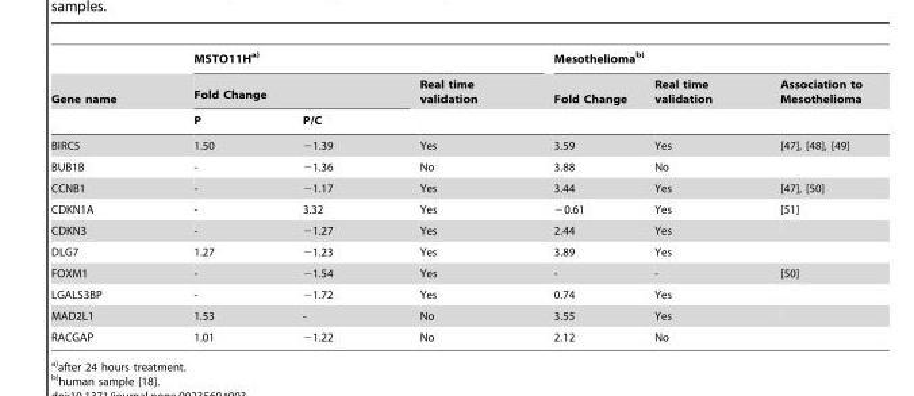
<table><thead><tr><td rowspan="3">Gene name</td><td colspan="3">MSTO11Ha)</td><td colspan="3">Mesotheliomab)</td></tr><tr><td colspan="2">Fold Change</td><td rowspan="2">Real time validation</td><td rowspan="2">Fold Change</td><td rowspan="2">Real time validation</td><td rowspan="2">Association to Mesothelioma</td></tr><tr><td>P</td><td>P/C</td></tr></thead><tbody><tr><td>BIRC5</td><td>1.50</td><td>−1.39</td><td>Yes</td><td>3.59</td><td>Yes</td><td>[47], [48], [49]</td></tr><tr><td>BUB1B</td><td>-</td><td>−1.36</td><td>No</td><td>3.88</td><td>No</td><td></td></tr><tr><td>CCNB1</td><td>-</td><td>−1.17</td><td>Yes</td><td>3.44</td><td>Yes</td><td>[47], [50]</td></tr><tr><td>CDKN1A</td><td>-</td><td>3.32</td><td>Yes</td><td>−0.61</td><td>Yes</td><td>[51]</td></tr><tr><td>CDKN3</td><td>-</td><td>−1.27</td><td>Yes</td><td>2.44</td><td>Yes</td><td></td></tr><tr><td>DLG7</td><td>1.27</td><td>−1.23</td><td>Yes</td><td>3.89</td><td>Yes</td><td></td></tr><tr><td>FOXM1</td><td>-</td><td>−1.54</td><td>Yes</td><td>-</td><td>-</td><td>[50]</td></tr><tr><td>LGALS3BP</td><td>-</td><td>−1.72</td><td>Yes</td><td>0.74</td><td>Yes</td><td></td></tr><tr><td>MAD2L1</td><td>1.53</td><td>-</td><td>No</td><td>3.55</td><td>Yes</td><td></td></tr><tr><td>RACGAP</td><td>1.01</td><td>−1.22</td><td>No</td><td>2.12</td><td>No</td><td></td></tr></tbody></table>